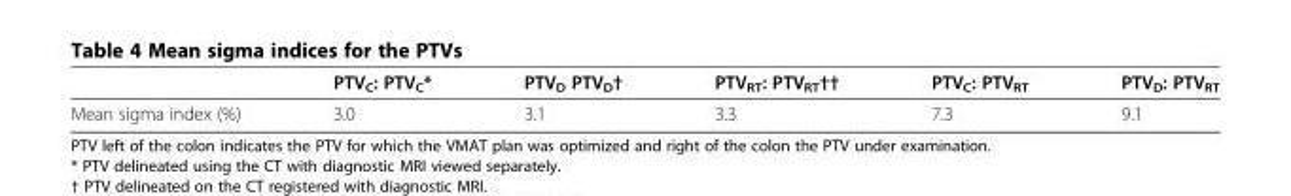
<table><thead><tr><td></td><td>PTV<sub>C</sub>: PTV<sub>C</sub>*</td><td>PTV<sub>D</sub> PTV<sub>D</sub>†</td><td>PTV<sub>RT</sub>: PTV<sub>RT</sub>††</td><td>PTV<sub>C</sub>: PTV<sub>RT</sub></td><td>PTV<sub>D</sub>: PTV<sub>RT</sub></td></tr></thead><tbody><tr><td>Mean sigma index (%)</td><td>3.0</td><td>3.1</td><td>3.3</td><td>7.3</td><td>9.1</td></tr></tbody></table>